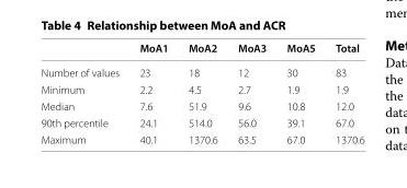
<table><thead><tr><td></td><td>MoA1</td><td>MoA2</td><td>MoA3</td><td>MoA5</td><td>Total</td></tr></thead><tbody><tr><td>Number of values</td><td>23</td><td>18</td><td>12</td><td>30</td><td>83</td></tr><tr><td>Minimum</td><td>2.2</td><td>4.5</td><td>2.7</td><td>1.9</td><td>1.9</td></tr><tr><td>Median</td><td>7.6</td><td>51.9</td><td>9.6</td><td>10.8</td><td>12.0</td></tr><tr><td>90th percentile</td><td>24.1</td><td>514.0</td><td>56.0</td><td>39.1</td><td>67.0</td></tr><tr><td>Maximum</td><td>40.1</td><td>1370.6</td><td>63.5</td><td>67.0</td><td>1370.6</td></tr></tbody></table>